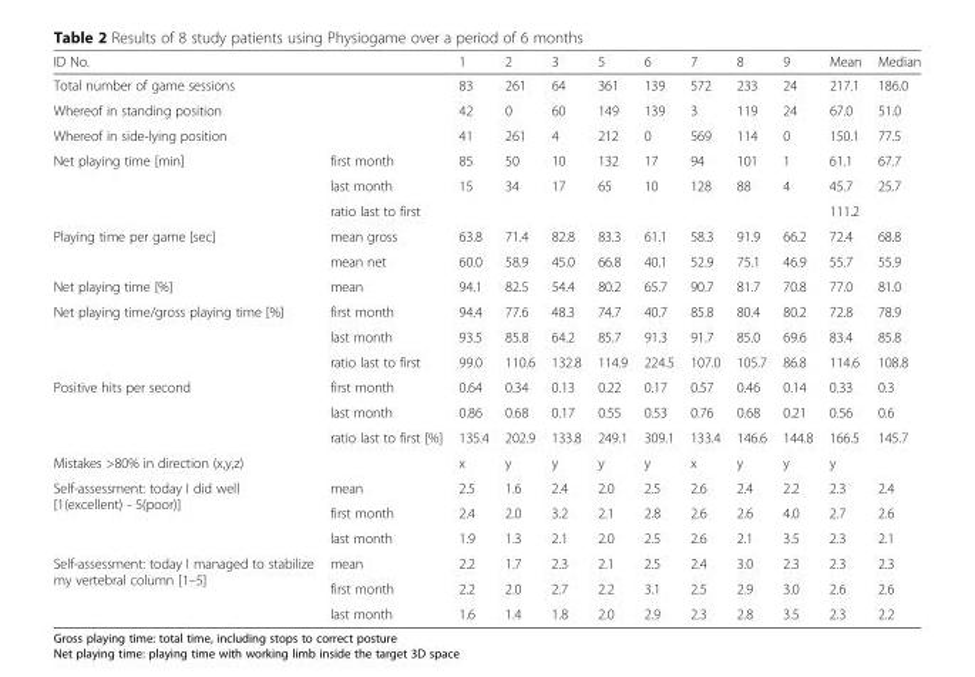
<table><thead><tr><td colspan="2">ID No.</td><td>1</td><td>2</td><td>3</td><td>5</td><td>6</td><td>7</td><td>8</td><td>9</td><td>Mean</td><td>Median</td></tr></thead><tbody><tr><td colspan="2">Total number of game sessions</td><td>83</td><td>261</td><td>64</td><td>361</td><td>139</td><td>572</td><td>233</td><td>24</td><td>217.1</td><td>186.0</td></tr><tr><td colspan="2">Whereof in standing position</td><td>42</td><td>0</td><td>60</td><td>149</td><td>139</td><td>3</td><td>119</td><td>24</td><td>67.0</td><td>51.0</td></tr><tr><td colspan="2">Whereof in side-lying position</td><td>41</td><td>261</td><td>4</td><td>212</td><td>0</td><td>569</td><td>114</td><td>0</td><td>150.1</td><td>77.5</td></tr><tr><td rowspan="3">Net playing time [min]</td><td>first month</td><td>85</td><td>50</td><td>10</td><td>132</td><td>17</td><td>94</td><td>101</td><td>1</td><td>61.1</td><td>67.7</td></tr><tr><td>last month</td><td>15</td><td>34</td><td>17</td><td>65</td><td>10</td><td>128</td><td>88</td><td>4</td><td>45.7</td><td>25.7</td></tr><tr><td>ratio last to first</td><td></td><td></td><td></td><td></td><td></td><td></td><td></td><td></td><td>111.2</td><td></td></tr><tr><td rowspan="2">Playing time per game [sec]</td><td>mean gross</td><td>63.8</td><td>71.4</td><td>82.8</td><td>83.3</td><td>61.1</td><td>58.3</td><td>91.9</td><td>66.2</td><td>72.4</td><td>68.8</td></tr><tr><td>mean net</td><td>60.0</td><td>58.9</td><td>45.0</td><td>66.8</td><td>40.1</td><td>52.9</td><td>75.1</td><td>46.9</td><td>55.7</td><td>55.9</td></tr><tr><td>Net playing time [%]</td><td>mean</td><td>94.1</td><td>82.5</td><td>54.4</td><td>80.2</td><td>65.7</td><td>90.7</td><td>81.7</td><td>70.8</td><td>77.0</td><td>81.0</td></tr><tr><td rowspan="3">Net playing time/gross playing time [%]</td><td>first month</td><td>94.4</td><td>77.6</td><td>48.3</td><td>74.7</td><td>40.7</td><td>85.8</td><td>80.4</td><td>80.2</td><td>72.8</td><td>78.9</td></tr><tr><td>last month</td><td>93.5</td><td>85.8</td><td>64.2</td><td>85.7</td><td>91.3</td><td>91.7</td><td>85.0</td><td>69.6</td><td>83.4</td><td>85.8</td></tr><tr><td>ratio last to first</td><td>99.0</td><td>110.6</td><td>132.8</td><td>114.9</td><td>224.5</td><td>107.0</td><td>105.7</td><td>86.8</td><td>114.6</td><td>108.8</td></tr><tr><td rowspan="3">Positive hits per second</td><td>first month</td><td>0.64</td><td>0.34</td><td>0.13</td><td>0.22</td><td>0.17</td><td>0.57</td><td>0.46</td><td>0.14</td><td>0.33</td><td>0.3</td></tr><tr><td>last month</td><td>0.86</td><td>0.68</td><td>0.17</td><td>0.55</td><td>0.53</td><td>0.76</td><td>0.68</td><td>0.21</td><td>0.56</td><td>0.6</td></tr><tr><td>ratio last to first [%]</td><td>135.4</td><td>202.9</td><td>133.8</td><td>249.1</td><td>309.1</td><td>133.4</td><td>146.6</td><td>144.8</td><td>166.5</td><td>145.7</td></tr><tr><td colspan="2">Mistakes &gt;80% in direction (x,y,z)</td><td>x</td><td>y</td><td>y</td><td>y</td><td>y</td><td>x</td><td>y</td><td>y</td><td>y</td><td></td></tr><tr><td rowspan="3">Self-assessment: today I did well [1(excellent) - 5(poor)]</td><td>mean</td><td>2.5</td><td>1.6</td><td>2.4</td><td>2.0</td><td>2.5</td><td>2.6</td><td>2.4</td><td>2.2</td><td>2.3</td><td>2.4</td></tr><tr><td>first month</td><td>2.4</td><td>2.0</td><td>3.2</td><td>2.1</td><td>2.8</td><td>2.6</td><td>2.6</td><td>4.0</td><td>2.7</td><td>2.6</td></tr><tr><td>last month</td><td>1.9</td><td>1.3</td><td>2.1</td><td>2.0</td><td>2.5</td><td>2.6</td><td>2.1</td><td>3.5</td><td>2.3</td><td>2.1</td></tr><tr><td rowspan="3">Self-assessment: today I managed to stabilize my vertebral column [1–5]</td><td>mean</td><td>2.2</td><td>1.7</td><td>2.3</td><td>2.1</td><td>2.5</td><td>2.4</td><td>3.0</td><td>2.3</td><td>2.3</td><td>2.3</td></tr><tr><td>first month</td><td>2.2</td><td>2.0</td><td>2.7</td><td>2.2</td><td>3.1</td><td>2.5</td><td>2.9</td><td>3.0</td><td>2.6</td><td>2.6</td></tr><tr><td>last month</td><td>1.6</td><td>1.4</td><td>1.8</td><td>2.0</td><td>2.9</td><td>2.3</td><td>2.8</td><td>3.5</td><td>2.3</td><td>2.2</td></tr></tbody></table>